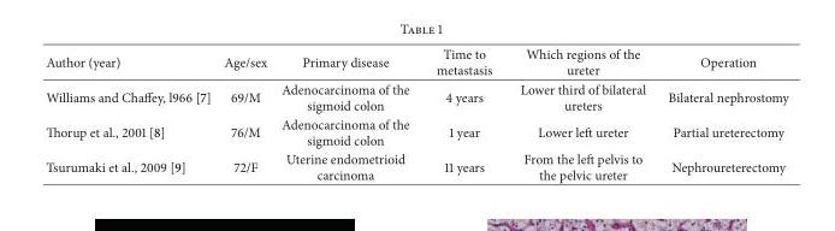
<table><thead><tr><td>Author (year)</td><td>Age/sex</td><td>Primary disease</td><td>Time to metastasis</td><td>Which regions of the ureter</td><td>Operation</td></tr></thead><tbody><tr><td>Williams and Chaffey, l966 [7]</td><td>69/M</td><td>Adenocarcinoma of the sigmoid colon</td><td>4 years</td><td>Lower third of bilateral ureters</td><td>Bilateral nephrostomy</td></tr><tr><td>Thorup et al., 2001 [8]</td><td>76/M</td><td>Adenocarcinoma of the sigmoid colon</td><td>1 year</td><td>Lower left ureter</td><td>Partial ureterectomy</td></tr><tr><td>Tsurumaki et al., 2009 [9]</td><td>72/F</td><td>Uterine endometrioid carcinoma</td><td>11 years</td><td>From the left pelvis to the pelvic ureter</td><td>Nephroureterectomy</td></tr></tbody></table>